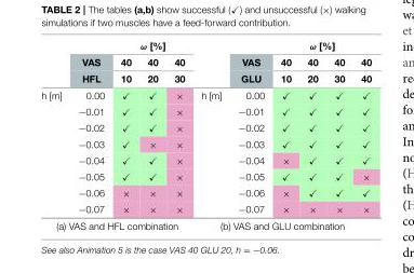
<table><thead><tr><td rowspan="3"></td><td rowspan="3">VAS HFL</td><td colspan="3">ω [%]</td><td rowspan="3"></td><td rowspan="3">VAS GLU</td><td colspan="4">ω [%]</td></tr><tr><td rowspan="2">40 10</td><td rowspan="2">40 20</td><td rowspan="2">40 30</td><td rowspan="2">40 10</td><td rowspan="2">40 20</td><td rowspan="2">40 30</td><td rowspan="2">40 40</td></tr><tr></tr></thead><tbody><tr><td rowspan="8">h [m]</td><td>0.00</td><td>✓</td><td>✓</td><td>×</td><td>h [m]</td><td>0.00</td><td>✓</td><td>✓</td><td>✓</td><td>✓</td></tr><tr><td>−0.01</td><td>✓</td><td>✓</td><td>×</td><td></td><td>−0.01</td><td>✓</td><td>✓</td><td>✓</td><td>✓</td></tr><tr><td>−0.02</td><td>✓</td><td>✓</td><td>×</td><td></td><td>−0.02</td><td>✓</td><td>✓</td><td>✓</td><td>✓</td></tr><tr><td>−0.03</td><td>✓</td><td>×</td><td>×</td><td></td><td>−0.03</td><td>✓</td><td>✓</td><td>✓</td><td>✓</td></tr><tr><td>−0.04</td><td>✓</td><td>✓</td><td>×</td><td></td><td>−0.04</td><td>×</td><td>✓</td><td>✓</td><td>✓</td></tr><tr><td>−0.05</td><td>✓</td><td>✓</td><td>×</td><td></td><td>−0.05</td><td>✓</td><td>✓</td><td>✓</td><td>×</td></tr><tr><td>−0.06</td><td>×</td><td>×</td><td>×</td><td></td><td>−0.06</td><td>×</td><td>✓</td><td>✓</td><td>✓</td></tr><tr><td>−0.07</td><td>×</td><td>×</td><td>×</td><td></td><td>−0.07</td><td>×</td><td>×</td><td>×</td><td>×</td></tr><tr><td colspan="5">(a) VAS and HFL combination</td><td colspan="6">(b) VAS and GLU combination</td></tr></tbody></table>